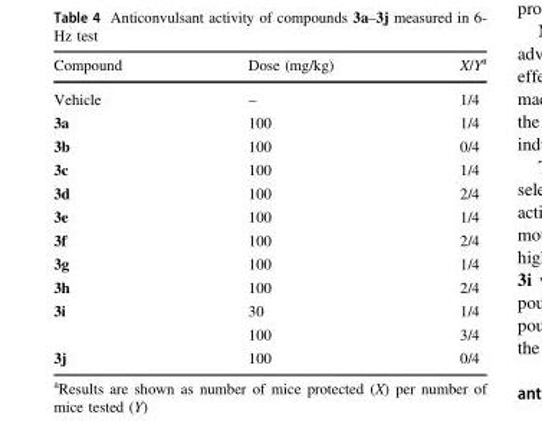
<table><thead><tr><td>Compound</td><td>Dose (mg/kg)</td><td>X/Y<sup>a</sup></td></tr></thead><tbody><tr><td>Vehicle</td><td>–</td><td>1/4</td></tr><tr><td>3a</td><td>100</td><td>1/4</td></tr><tr><td>3b</td><td>100</td><td>0/4</td></tr><tr><td>3c</td><td>100</td><td>1/4</td></tr><tr><td>3d</td><td>100</td><td>2/4</td></tr><tr><td>3e</td><td>100</td><td>1/4</td></tr><tr><td>3f</td><td>100</td><td>2/4</td></tr><tr><td>3g</td><td>100</td><td>1/4</td></tr><tr><td>3h</td><td>100</td><td>2/4</td></tr><tr><td rowspan="2">3i</td><td>30</td><td>1/4</td></tr><tr><td>100</td><td>3/4</td></tr><tr><td>3j</td><td>100</td><td>0/4</td></tr></tbody></table>